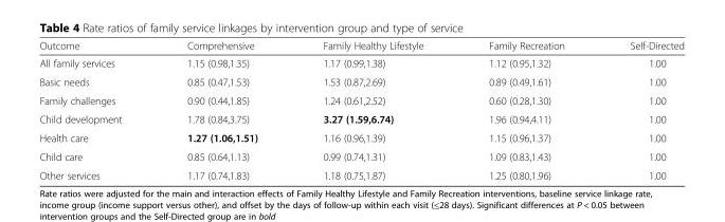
<table><thead><tr><td>Outcome</td><td>Comprehensive</td><td>Family Healthy Lifestyle</td><td>Family Recreation</td><td>Self-Directed</td></tr></thead><tbody><tr><td>All family services</td><td>1.15 (0.98,1.35)</td><td>1.17 (0.99,1.38)</td><td>1.12 (0.95,1.32)</td><td>1.00</td></tr><tr><td>Basic needs</td><td>0.85 (0.47,1.53)</td><td>1.53 (0.87,2.69)</td><td>0.89 (0.49,1.61)</td><td>1.00</td></tr><tr><td>Family challenges</td><td>0.90 (0.44,1.85)</td><td>1.24 (0.61,2.52)</td><td>0.60 (0.28,1.30)</td><td>1.00</td></tr><tr><td>Child development</td><td>1.78 (0.84,3.75)</td><td>3.27 (1.59,6.74)</td><td>1.96 (0.94,4.11)</td><td>1.00</td></tr><tr><td>Health care</td><td>1.27 (1.06,1.51)</td><td>1.16 (0.96,1.39)</td><td>1.15 (0.96,1.37)</td><td>1.00</td></tr><tr><td>Child care</td><td>0.85 (0.64,1.13)</td><td>0.99 (0.74,1.31)</td><td>1.09 (0.83,1.43)</td><td>1.00</td></tr><tr><td>Other services</td><td>1.17 (0.74,1.83)</td><td>1.18 (0.75,1.87)</td><td>1.25 (0.80,1.96)</td><td>1.00</td></tr></tbody></table>